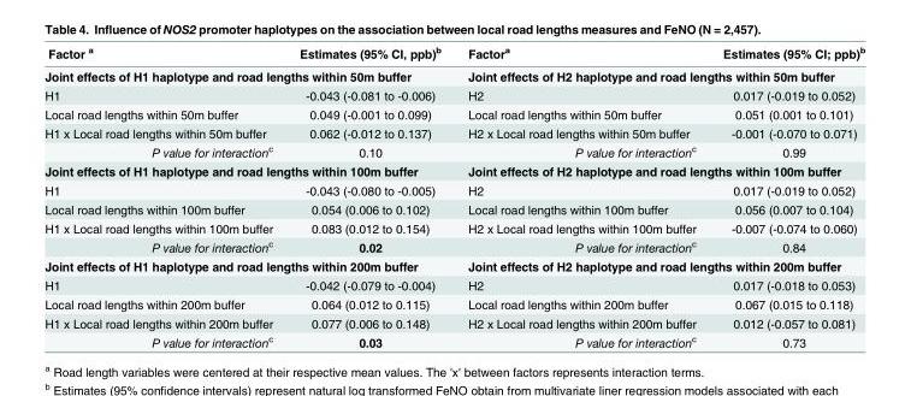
<table><thead><tr><td>Factor <sup>a</sup></td><td>Estimates (95% CI, ppb)<sup>b</sup></td><td>Factor<sup>a</sup></td><td>Estimates (95% CI; ppb)<sup>b</sup></td></tr></thead><tbody><tr><td colspan="2">Joint effects of H1 haplotype and road lengths within 50m buffer</td><td colspan="2">Joint effects of H2 haplotype and road lengths within 50m buffer</td></tr><tr><td>H1</td><td>-0.043 (-0.081 to -0.006)</td><td>H2</td><td>0.017 (-0.019 to 0.052)</td></tr><tr><td>Local road lengths within 50m buffer</td><td>0.049 (-0.001 to 0.099)</td><td>Local road lengths within 50m buffer</td><td>0.051 (0.001 to 0.101)</td></tr><tr><td>H1 x Local road lengths within 50m buffer</td><td>0.062 (-0.012 to 0.137)</td><td>H2 x Local road lengths within 50m buffer</td><td>-0.001 (-0.070 to 0.071)</td></tr><tr><td>P value for interaction<sup>c</sup></td><td>0.10</td><td>P value for interaction<sup>c</sup></td><td>0.99</td></tr><tr><td colspan="2">Joint effects of H1 haplotype and road lengths within 100m buffer</td><td colspan="2">Joint effects of H2 haplotype and road lengths within 100m buffer</td></tr><tr><td>H1</td><td>-0.043 (-0.080 to -0.005)</td><td>H2</td><td>0.017 (-0.019 to 0.052)</td></tr><tr><td>Local road lengths within 100m buffer</td><td>0.054 (0.006 to 0.102)</td><td>Local road lengths within 100m buffer</td><td>0.056 (0.007 to 0.104)</td></tr><tr><td>H1 x Local road lengths within 100m buffer</td><td>0.083 (0.012 to 0.154)</td><td>H2 x Local road lengths within 100m buffer</td><td>-0.007 (-0.074 to 0.060)</td></tr><tr><td>P value for interaction<sup>c</sup></td><td>0.02</td><td>P value for interaction<sup>c</sup></td><td>0.84</td></tr><tr><td colspan="2">Joint effects of H1 haplotype and road lengths within 200m buffer</td><td colspan="2">Joint effects of H2 haplotype and road lengths within 200m buffer</td></tr><tr><td>H1</td><td>-0.042 (-0.079 to -0.004)</td><td>H2</td><td>0.017 (-0.018 to 0.053)</td></tr><tr><td>Local road lengths within 200m buffer</td><td>0.064 (0.012 to 0.115)</td><td>Local road lengths within 200m buffer</td><td>0.067 (0.015 to 0.118)</td></tr><tr><td>H1 x Local road lengths within 200m buffer</td><td>0.077 (0.006 to 0.148)</td><td>H2 x Local road lengths within 200m buffer</td><td>0.012 (-0.057 to 0.081)</td></tr><tr><td>P value for interaction<sup>c</sup></td><td>0.03</td><td>P value for interaction<sup>c</sup></td><td>0.73</td></tr></tbody></table>